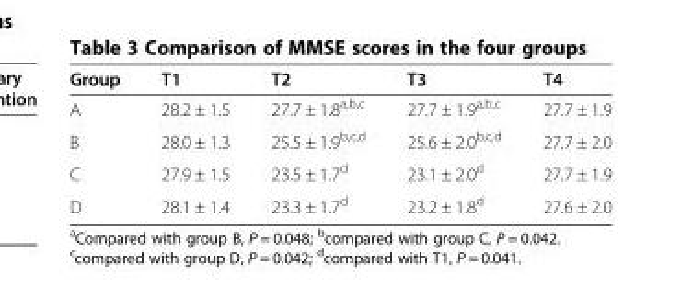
<table><thead><tr><td>Group</td><td>T1</td><td>T2</td><td>T3</td><td>T4</td></tr></thead><tbody><tr><td>A</td><td>28.2 ± 1.5</td><td>27.7 ± 1.8<sup>a,b,c</sup></td><td>27.7 ± 1.9<sup>a,b,c</sup></td><td>27.7 ± 1.9</td></tr><tr><td>B</td><td>28.0 ± 1.3</td><td>25.5 ± 1.9<sup>b,c,d</sup></td><td>25.6 ± 2.0<sup>b,c,d</sup></td><td>27.7 ± 2.0</td></tr><tr><td>C</td><td>27.9 ± 1.5</td><td>23.5 ± 1.7<sup>d</sup></td><td>23.1 ± 2.0<sup>d</sup></td><td>27.7 ± 1.9</td></tr><tr><td>D</td><td>28.1 ± 1.4</td><td>23.3 ± 1.7<sup>d</sup></td><td>23.2 ± 1.8<sup>d</sup></td><td>27.6 ± 2.0</td></tr></tbody></table>